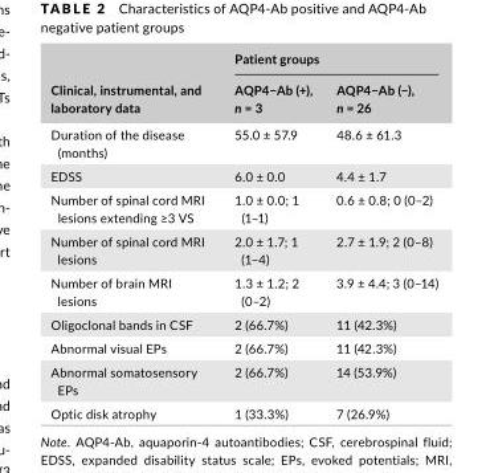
<table><thead><tr><td rowspan="2">Clinical, instrumental, and laboratory data</td><td colspan="2">Patient groups</td></tr><tr><td>AQP4−Ab (+), n = 3</td><td>AQP4−Ab (−), n = 26</td></tr></thead><tbody><tr><td>Duration of the disease (months)</td><td>55.0 ± 57.9</td><td>48.6 ± 61.3</td></tr><tr><td>EDSS</td><td>6.0 ± 0.0</td><td>4.4 ± 1.7</td></tr><tr><td>Number of spinal cord MRI lesions extending ≥3 VS</td><td>1.0 ± 0.0; 1 (1–1)</td><td>0.6 ± 0.8; 0 (0–2)</td></tr><tr><td>Number of spinal cord MRI lesions</td><td>2.0 ± 1.7; 1 (1–4)</td><td>2.7 ± 1.9; 2 (0–8)</td></tr><tr><td>Number of brain MRI lesions</td><td>1.3 ± 1.2; 2 (0–2)</td><td>3.9 ± 4.4; 3 (0–14)</td></tr><tr><td>Oligoclonal bands in CSF</td><td>2 (66.7%)</td><td>11 (42.3%)</td></tr><tr><td>Abnormal visual EPs</td><td>2 (66.7%)</td><td>11 (42.3%)</td></tr><tr><td>Abnormal somatosensory EPs</td><td>2 (66.7%)</td><td>14 (53.9%)</td></tr><tr><td>Optic disk atrophy</td><td>1 (33.3%)</td><td>7 (26.9%)</td></tr></tbody></table>